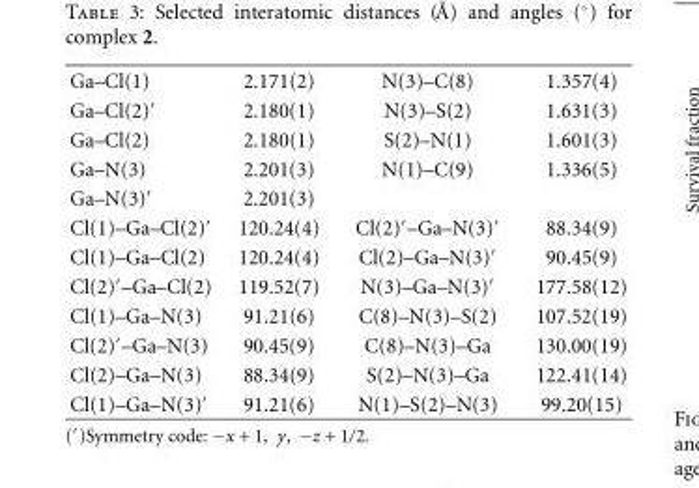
<table><tbody><tr><td>Ga–Cl(1)</td><td>2.171(2)</td><td>N(3)–C(8)</td><td>1.357(4)</td></tr><tr><td>Ga–Cl(2)′</td><td>2.180(1)</td><td>N(3)–S(2)</td><td>1.631(3)</td></tr><tr><td>Ga–Cl(2)</td><td>2.180(1)</td><td>S(2)–N(1)</td><td>1.601(3)</td></tr><tr><td>Ga–N(3)</td><td>2.201(3)</td><td>N(1)–C(9)</td><td>1.336(5)</td></tr><tr><td>Ga–N(3)′</td><td>2.201(3)</td><td></td><td></td></tr><tr><td>Cl(1)–Ga–Cl(2)′</td><td>120.24(4)</td><td>Cl(2)′–Ga–N(3)′</td><td>88.34(9)</td></tr><tr><td>Cl(1)–Ga–Cl(2)</td><td>120.24(4)</td><td>Cl(2)–Ga–N(3)′</td><td>90.45(9)</td></tr><tr><td>Cl(2)′–Ga–Cl(2)</td><td>119.52(7)</td><td>N(3)–Ga–N(3)′</td><td>177.58(12)</td></tr><tr><td>Cl(1)–Ga–N(3)</td><td>91.21(6)</td><td>C(8)–N(3)–S(2)</td><td>107.52(19)</td></tr><tr><td>Cl(2)′–Ga–N(3)</td><td>90.45(9)</td><td>C(8)–N(3)–Ga</td><td>130.00(19)</td></tr><tr><td>Cl(2)–Ga–N(3)</td><td>88.34(9)</td><td>S(2)–N(3)–Ga</td><td>122.41(14)</td></tr><tr><td>Cl(1)–Ga–N(3)′</td><td>91.21(6)</td><td>N(1)–S(2)–N(3)</td><td>99.20(15)</td></tr></tbody></table>